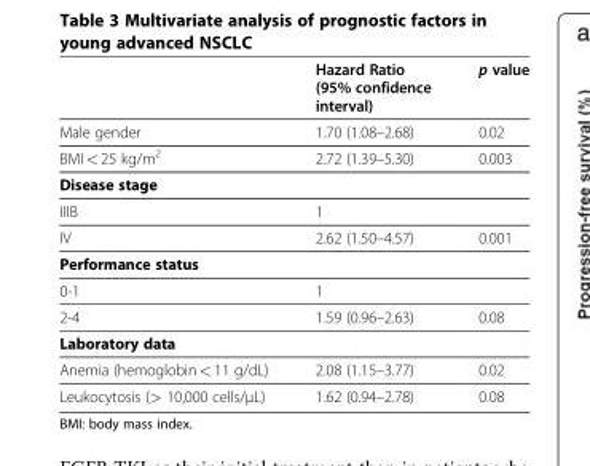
<table><thead><tr><td></td><td>Hazard Ratio (95% confidence interval)</td><td>p value</td></tr></thead><tbody><tr><td>Male gender</td><td>1.70 (1.08–2.68)</td><td>0.02</td></tr><tr><td>BMI &lt; 25 kg/m<sup>2</sup></td><td>2.72 (1.39–5.30)</td><td>0.003</td></tr><tr><td colspan="3">Disease stage</td></tr><tr><td>IIIB</td><td>1</td><td></td></tr><tr><td>IV</td><td>2.62 (1.50–4.57)</td><td>0.001</td></tr><tr><td colspan="3">Performance status</td></tr><tr><td>0-1</td><td>1</td><td></td></tr><tr><td>2-4</td><td>1.59 (0.96–2.63)</td><td>0.08</td></tr><tr><td colspan="3">Laboratory data</td></tr><tr><td>Anemia (hemoglobin &lt; 11 g/dL)</td><td>2.08 (1.15–3.77)</td><td>0.02</td></tr><tr><td>Leukocytosis (&gt; 10,000 cells/μL)</td><td>1.62 (0.94–2.78)</td><td>0.08</td></tr></tbody></table>